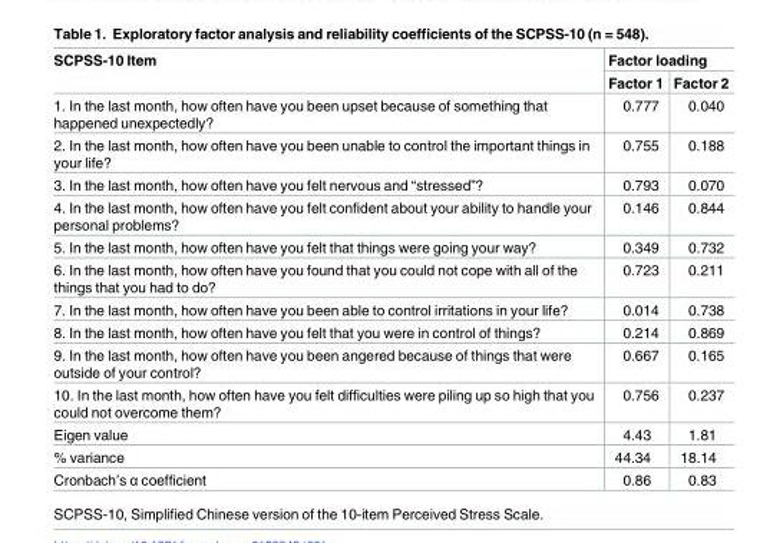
<table><thead><tr><td rowspan="2">SCPSS-10 Item</td><td colspan="2">Factor loading</td></tr><tr><td>Factor 1</td><td>Factor 2</td></tr></thead><tbody><tr><td>1. In the last month, how often have you been upset because of something that happened unexpectedly?</td><td>0.777</td><td>0.040</td></tr><tr><td>2. In the last month, how often have you been unable to control the important things in your life?</td><td>0.755</td><td>0.188</td></tr><tr><td>3. In the last month, how often have you felt nervous and “stressed”?</td><td>0.793</td><td>0.070</td></tr><tr><td>4. In the last month, how often have you felt confident about your ability to handle your personal problems?</td><td>0.146</td><td>0.844</td></tr><tr><td>5. In the last month, how often have you felt that things were going your way?</td><td>0.349</td><td>0.732</td></tr><tr><td>6. In the last month, how often have you found that you could not cope with all of the things that you had to do?</td><td>0.723</td><td>0.211</td></tr><tr><td>7. In the last month, how often have you been able to control irritations in your life?</td><td>0.014</td><td>0.738</td></tr><tr><td>8. In the last month, how often have you felt that you were in control of things?</td><td>0.214</td><td>0.869</td></tr><tr><td>9. In the last month, how often have you been angered because of things that were outside of your control?</td><td>0.667</td><td>0.165</td></tr><tr><td>10. In the last month, how often have you felt difficulties were piling up so high that you could not overcome them?</td><td>0.756</td><td>0.237</td></tr><tr><td>Eigen value</td><td>4.43</td><td>1.81</td></tr><tr><td>% variance</td><td>44.34</td><td>18.14</td></tr><tr><td>Cronbach’s α coefficient</td><td>0.86</td><td>0.83</td></tr></tbody></table>